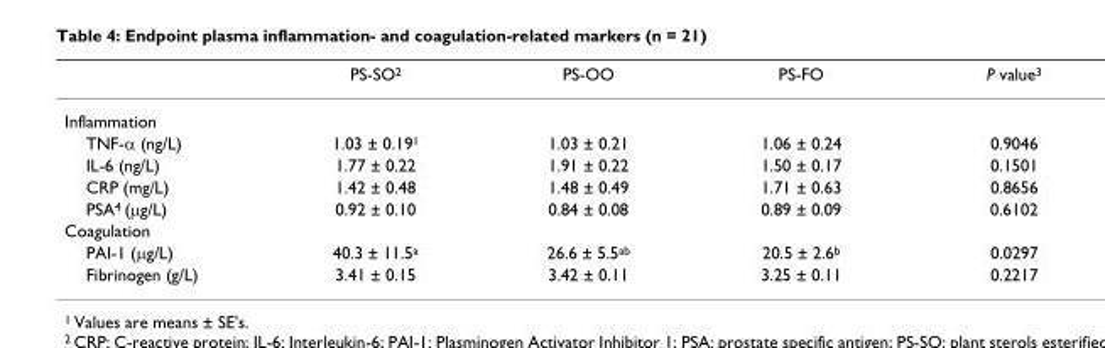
<table><thead><tr><td></td><td>PS-SO<sup>2</sup></td><td>PS-OO</td><td>PS-FO</td><td>P value<sup>3</sup></td></tr></thead><tbody><tr><td colspan="5">Inflammation</td></tr><tr><td>TNF-α (ng/L)</td><td>1.03 ± 0.19<sup>1</sup></td><td>1.03 ± 0.21</td><td>1.06 ± 0.24</td><td>0.9046</td></tr><tr><td>IL-6 (ng/L)</td><td>1.77 ± 0.22</td><td>1.91 ± 0.22</td><td>1.50 ± 0.17</td><td>0.1501</td></tr><tr><td>CRP (mg/L)</td><td>1.42 ± 0.48</td><td>1.48 ± 0.49</td><td>1.71 ± 0.63</td><td>0.8656</td></tr><tr><td>PSA<sup>4</sup> (µg/L)</td><td>0.92 ± 0.10</td><td>0.84 ± 0.08</td><td>0.89 ± 0.09</td><td>0.6102</td></tr><tr><td colspan="5">Coagulation</td></tr><tr><td>PAI-1 (µg/L)</td><td>40.3 ± 11.5<sup>a</sup></td><td>26.6 ± 5.5<sup>ab</sup></td><td>20.5 ± 2.6<sup>b</sup></td><td>0.0297</td></tr><tr><td>Fibrinogen (g/L)</td><td>3.41 ± 0.15</td><td>3.42 ± 0.11</td><td>3.25 ± 0.11</td><td>0.2217</td></tr></tbody></table>